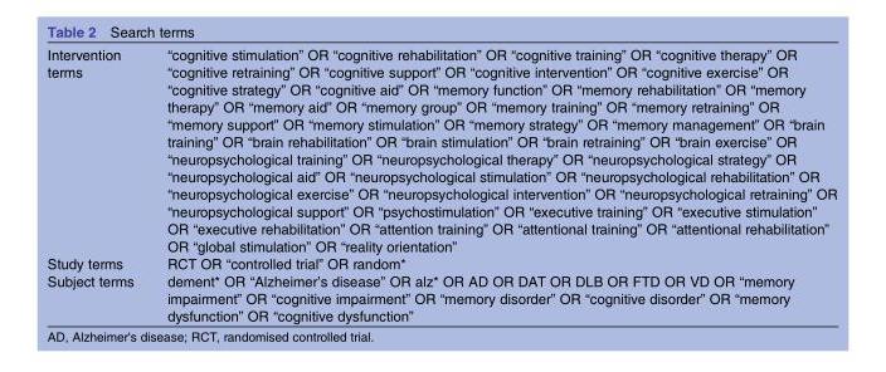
<table><tbody><tr><td>Intervention terms</td><td>“cognitive stimulation” OR “cognitive rehabilitation” OR “cognitive training” OR “cognitive therapy” OR “cognitive retraining” OR “cognitive support” OR “cognitive intervention” OR “cognitive exercise” OR “cognitive strategy” OR “cognitive aid” OR “memory function” OR “memory rehabilitation” OR “memory therapy” OR “memory aid” OR “memory group” OR “memory training” OR “memory retraining” OR “memory support” OR “memory stimulation” OR “memory strategy” OR “memory management” OR “brain training” OR “brain rehabilitation” OR “brain stimulation” OR “brain retraining” OR “brain exercise” OR “neuropsychological training” OR “neuropsychological therapy” OR “neuropsychological strategy” OR “neuropsychological aid” OR “neuropsychological stimulation” OR “neuropsychological rehabilitation” OR “neuropsychological exercise” OR “neuropsychological intervention” OR “neuropsychological retraining” OR “neuropsychological support” OR “psychostimulation” OR “executive training” OR “executive stimulation” OR “executive rehabilitation” OR “attention training” OR “attentional training” OR “attentional rehabilitation” OR “global stimulation” OR “reality orientation”</td></tr><tr><td>Study terms</td><td>RCT OR “controlled trial” OR random*</td></tr><tr><td>Subject terms</td><td>dement* OR “Alzheimer’s disease” OR alz* OR AD OR DAT OR DLB OR FTD OR VD OR “memory impairment” OR “cognitive impairment” OR “memory disorder” OR “cognitive disorder” OR “memory dysfunction” OR “cognitive dysfunction”</td></tr></tbody></table>